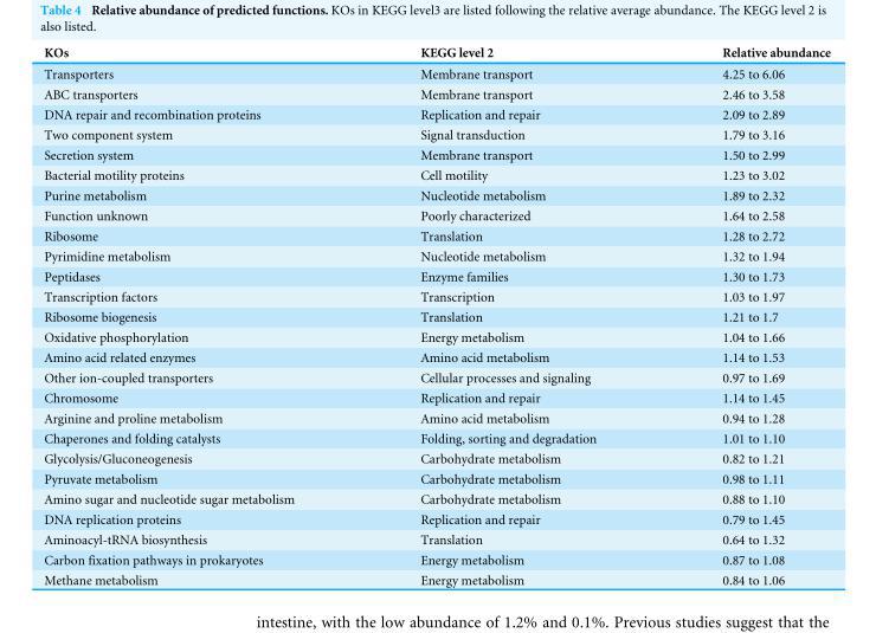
<table><thead><tr><td>KOs</td><td>KEGG level 2</td><td>Relative abundance</td></tr></thead><tbody><tr><td>Transporters</td><td>Membrane transport</td><td>4.25 to 6.06</td></tr><tr><td>ABC transporters</td><td>Membrane transport</td><td>2.46 to 3.58</td></tr><tr><td>DNA repair and recombination proteins</td><td>Replication and repair</td><td>2.09 to 2.89</td></tr><tr><td>Two component system</td><td>Signal transduction</td><td>1.79 to 3.16</td></tr><tr><td>Secretion system</td><td>Membrane transport</td><td>1.50 to 2.99</td></tr><tr><td>Bacterial motility proteins</td><td>Cell motility</td><td>1.23 to 3.02</td></tr><tr><td>Purine metabolism</td><td>Nucleotide metabolism</td><td>1.89 to 2.32</td></tr><tr><td>Function unknown</td><td>Poorly characterized</td><td>1.64 to 2.58</td></tr><tr><td>Ribosome</td><td>Translation</td><td>1.28 to 2.72</td></tr><tr><td>Pyrimidine metabolism</td><td>Nucleotide metabolism</td><td>1.32 to 1.94</td></tr><tr><td>Peptidases</td><td>Enzyme families</td><td>1.30 to 1.73</td></tr><tr><td>Transcription factors</td><td>Transcription</td><td>1.03 to 1.97</td></tr><tr><td>Ribosome biogenesis</td><td>Translation</td><td>1.21 to 1.7</td></tr><tr><td>Oxidative phosphorylation</td><td>Energy metabolism</td><td>1.04 to 1.66</td></tr><tr><td>Amino acid related enzymes</td><td>Amino acid metabolism</td><td>1.14 to 1.53</td></tr><tr><td>Other ion-coupled transporters</td><td>Cellular processes and signaling</td><td>0.97 to 1.69</td></tr><tr><td>Chromosome</td><td>Replication and repair</td><td>1.14 to 1.45</td></tr><tr><td>Arginine and proline metabolism</td><td>Amino acid metabolism</td><td>0.94 to 1.28</td></tr><tr><td>Chaperones and folding catalysts</td><td>Folding, sorting and degradation</td><td>1.01 to 1.10</td></tr><tr><td>Glycolysis/Gluconeogenesis</td><td>Carbohydrate metabolism</td><td>0.82 to 1.21</td></tr><tr><td>Pyruvate metabolism</td><td>Carbohydrate metabolism</td><td>0.98 to 1.11</td></tr><tr><td>Amino sugar and nucleotide sugar metabolism</td><td>Carbohydrate metabolism</td><td>0.88 to 1.10</td></tr><tr><td>DNA replication proteins</td><td>Replication and repair</td><td>0.79 to 1.45</td></tr><tr><td>Aminoacyl-tRNA biosynthesis</td><td>Translation</td><td>0.64 to 1.32</td></tr><tr><td>Carbon fixation pathways in prokaryotes</td><td>Energy metabolism</td><td>0.87 to 1.08</td></tr><tr><td>Methane metabolism</td><td>Energy metabolism</td><td>0.84 to 1.06</td></tr></tbody></table>